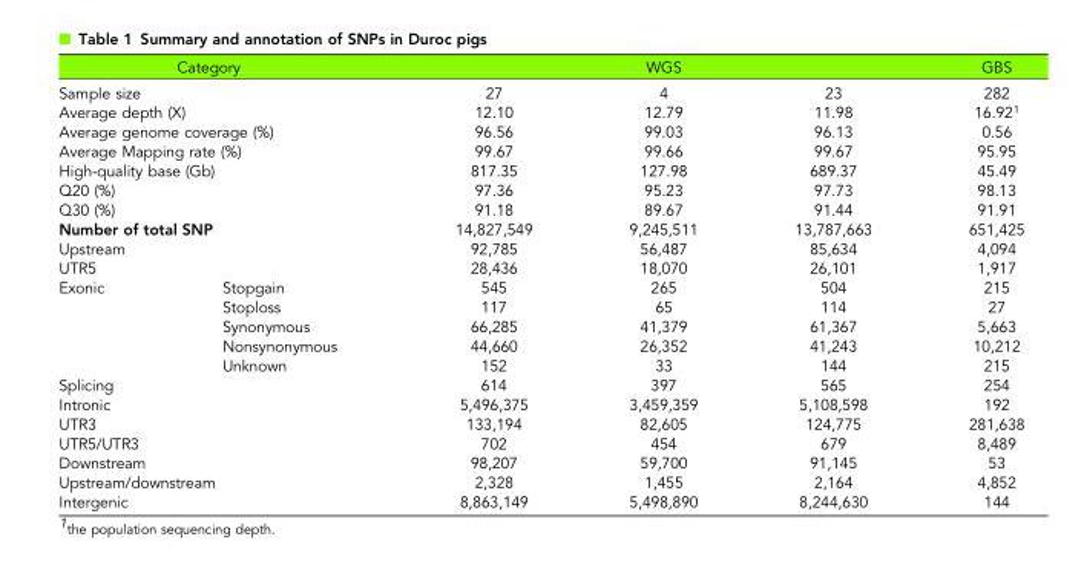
<table><thead><tr><td colspan="2">Category</td><td></td><td>WGS</td><td></td><td>GBS</td></tr></thead><tbody><tr><td colspan="2">Sample size</td><td>27</td><td>4</td><td>23</td><td>282</td></tr><tr><td colspan="2">Average depth (X)</td><td>12.10</td><td>12.79</td><td>11.98</td><td>16.92<sup>1</sup></td></tr><tr><td colspan="2">Average genome coverage (%)</td><td>96.56</td><td>99.03</td><td>96.13</td><td>0.56</td></tr><tr><td colspan="2">Average Mapping rate (%)</td><td>99.67</td><td>99.66</td><td>99.67</td><td>95.95</td></tr><tr><td colspan="2">High-quality base (Gb)</td><td>817.35</td><td>127.98</td><td>689.37</td><td>45.49</td></tr><tr><td colspan="2">Q20 (%)</td><td>97.36</td><td>95.23</td><td>97.73</td><td>98.13</td></tr><tr><td colspan="2">Q30 (%)</td><td>91.18</td><td>89.67</td><td>91.44</td><td>91.91</td></tr><tr><td colspan="2">Number of total SNP</td><td>14,827,549</td><td>9,245,511</td><td>13,787,663</td><td>651,425</td></tr><tr><td colspan="2">Upstream</td><td>92,785</td><td>56,487</td><td>85,634</td><td>4,094</td></tr><tr><td colspan="2">UTR5</td><td>28,436</td><td>18,070</td><td>26,101</td><td>1,917</td></tr><tr><td rowspan="5">Exonic</td><td>Stopgain</td><td>545</td><td>265</td><td>504</td><td>215</td></tr><tr><td>Stoploss</td><td>117</td><td>65</td><td>114</td><td>27</td></tr><tr><td>Synonymous</td><td>66,285</td><td>41,379</td><td>61,367</td><td>5,663</td></tr><tr><td>Nonsynonymous</td><td>44,660</td><td>26,352</td><td>41,243</td><td>10,212</td></tr><tr><td>Unknown</td><td>152</td><td>33</td><td>144</td><td>215</td></tr><tr><td colspan="2">Splicing</td><td>614</td><td>397</td><td>565</td><td>254</td></tr><tr><td colspan="2">Intronic</td><td>5,496,375</td><td>3,459,359</td><td>5,108,598</td><td>192</td></tr><tr><td colspan="2">UTR3</td><td>133,194</td><td>82,605</td><td>124,775</td><td>281,638</td></tr><tr><td colspan="2">UTR5/UTR3</td><td>702</td><td>454</td><td>679</td><td>8,489</td></tr><tr><td colspan="2">Downstream</td><td>98,207</td><td>59,700</td><td>91,145</td><td>53</td></tr><tr><td colspan="2">Upstream/downstream</td><td>2,328</td><td>1,455</td><td>2,164</td><td>4,852</td></tr><tr><td colspan="2">Intergenic</td><td>8,863,149</td><td>5,498,890</td><td>8,244,630</td><td>144</td></tr></tbody></table>